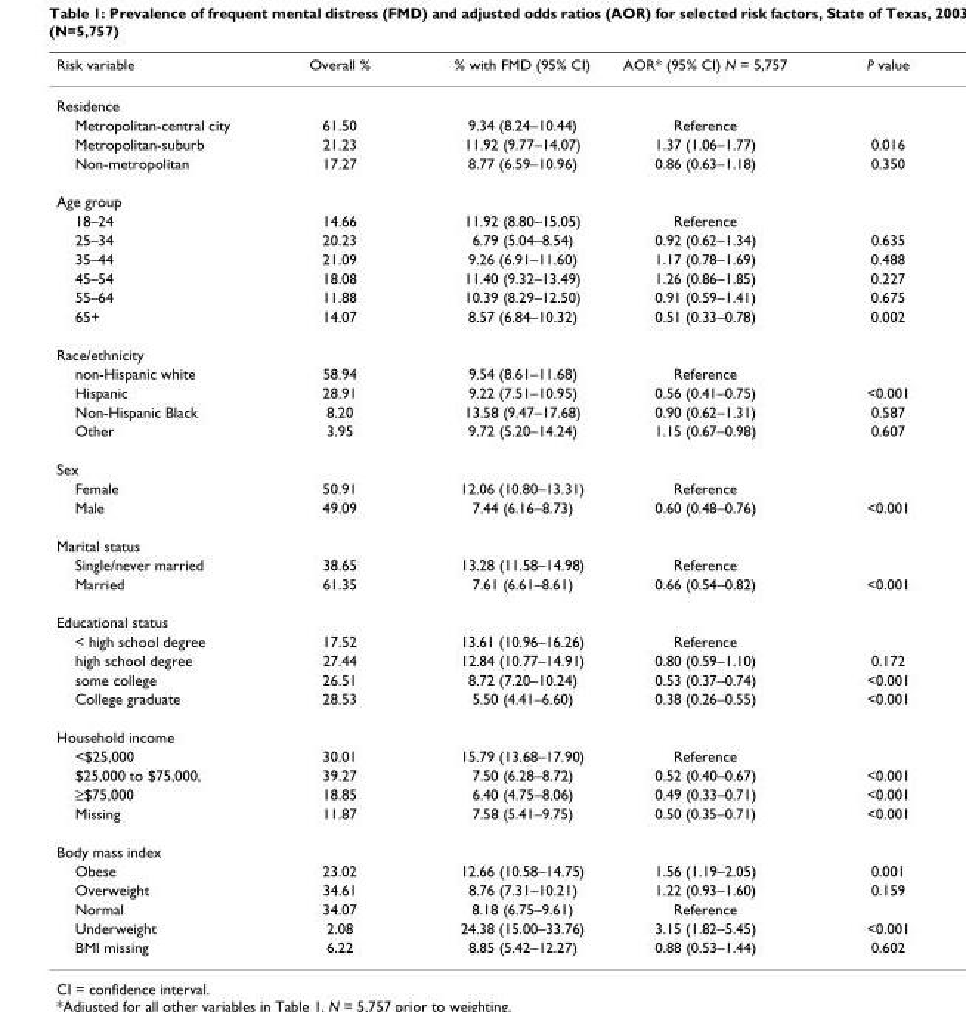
<table><thead><tr><td>Risk variable</td><td>Overall %</td><td>% with FMD (95% CI)</td><td>AOR* (95% CI) N = 5,757</td><td>P value</td></tr></thead><tbody><tr><td colspan="5">Residence</td></tr><tr><td>Metropolitan-central city</td><td>61.50</td><td>9.34 (8.24–10.44)</td><td>Reference</td><td></td></tr><tr><td>Metropolitan-suburb</td><td>21.23</td><td>11.92 (9.77–14.07)</td><td>1.37 (1.06–1.77)</td><td>0.016</td></tr><tr><td>Non-metropolitan</td><td>17.27</td><td>8.77 (6.59–10.96)</td><td>0.86 (0.63–1.18)</td><td>0.350</td></tr><tr><td colspan="5">Age group</td></tr><tr><td>18–24</td><td>14.66</td><td>11.92 (8.80–15.05)</td><td>Reference</td><td></td></tr><tr><td>25–34</td><td>20.23</td><td>6.79 (5.04–8.54)</td><td>0.92 (0.62–1.34)</td><td>0.635</td></tr><tr><td>35–44</td><td>21.09</td><td>9.26 (6.91–11.60)</td><td>1.17 (0.78–1.69)</td><td>0.488</td></tr><tr><td>45–54</td><td>18.08</td><td>11.40 (9.32–13.49)</td><td>1.26 (0.86–1.85)</td><td>0.227</td></tr><tr><td>55–64</td><td>11.88</td><td>10.39 (8.29–12.50)</td><td>0.91 (0.59–1.41)</td><td>0.675</td></tr><tr><td>65+</td><td>14.07</td><td>8.57 (6.84–10.32)</td><td>0.51 (0.33–0.78)</td><td>0.002</td></tr><tr><td colspan="5">Race/ethnicity</td></tr><tr><td>non-Hispanic white</td><td>58.94</td><td>9.54 (8.61–11.68)</td><td>Reference</td><td></td></tr><tr><td>Hispanic</td><td>28.91</td><td>9.22 (7.51–10.95)</td><td>0.56 (0.41–0.75)</td><td>&lt;0.001</td></tr><tr><td>Non-Hispanic Black</td><td>8.20</td><td>13.58 (9.47–17.68)</td><td>0.90 (0.62–1.31)</td><td>0.587</td></tr><tr><td>Other</td><td>3.95</td><td>9.72 (5.20–14.24)</td><td>1.15 (0.67–0.98)</td><td>0.607</td></tr><tr><td colspan="5">Sex</td></tr><tr><td>Female</td><td>50.91</td><td>12.06 (10.80–13.31)</td><td>Reference</td><td></td></tr><tr><td>Male</td><td>49.09</td><td>7.44 (6.16–8.73)</td><td>0.60 (0.48–0.76)</td><td>&lt;0.001</td></tr><tr><td colspan="5">Marital status</td></tr><tr><td>Single/never married</td><td>38.65</td><td>13.28 (11.58–14.98)</td><td>Reference</td><td></td></tr><tr><td>Married</td><td>61.35</td><td>7.61 (6.61–8.61)</td><td>0.66 (0.54–0.82)</td><td>&lt;0.001</td></tr><tr><td colspan="5">Educational status</td></tr><tr><td>&lt; high school degree</td><td>17.52</td><td>13.61 (10.96–16.26)</td><td>Reference</td><td></td></tr><tr><td>high school degree</td><td>27.44</td><td>12.84 (10.77–14.91)</td><td>0.80 (0.59–1.10)</td><td>0.172</td></tr><tr><td>some college</td><td>26.51</td><td>8.72 (7.20–10.24)</td><td>0.53 (0.37–0.74)</td><td>&lt;0.001</td></tr><tr><td>College graduate</td><td>28.53</td><td>5.50 (4.41–6.60)</td><td>0.38 (0.26–0.55)</td><td>&lt;0.001</td></tr><tr><td colspan="5">Household income</td></tr><tr><td>&lt;$25,000</td><td>30.01</td><td>15.79 (13.68–17.90)</td><td>Reference</td><td></td></tr><tr><td>$25,000 to $75,000,</td><td>39.27</td><td>7.50 (6.28–8.72)</td><td>0.52 (0.40–0.67)</td><td>&lt;0.001</td></tr><tr><td>≥$75,000</td><td>18.85</td><td>6.40 (4.75–8.06)</td><td>0.49 (0.33–0.71)</td><td>&lt;0.001</td></tr><tr><td>Missing</td><td>11.87</td><td>7.58 (5.41–9.75)</td><td>0.50 (0.35–0.71)</td><td>&lt;0.001</td></tr><tr><td colspan="5">Body mass index</td></tr><tr><td>Obese</td><td>23.02</td><td>12.66 (10.58–14.75)</td><td>1.56 (1.19–2.05)</td><td>0.001</td></tr><tr><td>Overweight</td><td>34.61</td><td>8.76 (7.31–10.21)</td><td>1.22 (0.93–1.60)</td><td>0.159</td></tr><tr><td>Normal</td><td>34.07</td><td>8.18 (6.75–9.61)</td><td>Reference</td><td></td></tr><tr><td>Underweight</td><td>2.08</td><td>24.38 (15.00–33.76)</td><td>3.15 (1.82–5.45)</td><td>&lt;0.001</td></tr><tr><td>BMI missing</td><td>6.22</td><td>8.85 (5.42–12.27)</td><td>0.88 (0.53–1.44)</td><td>0.602</td></tr></tbody></table>